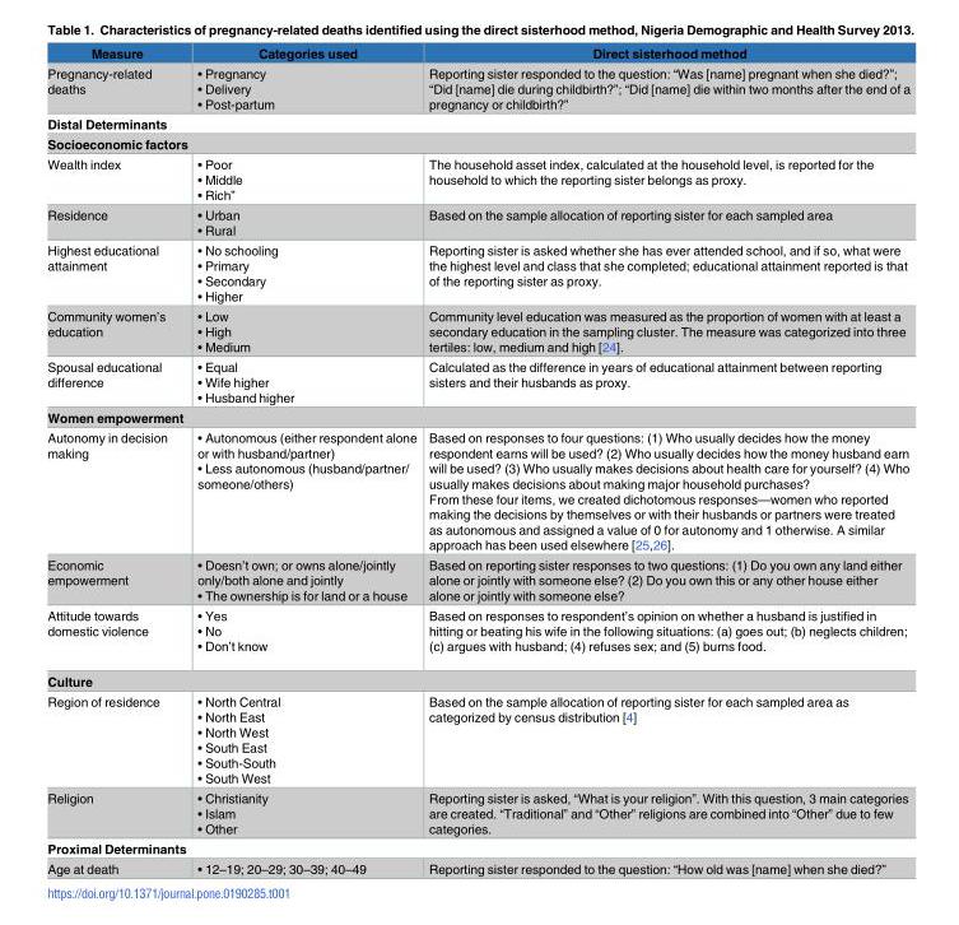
<table><thead><tr><td>Measure</td><td>Categories used</td><td>Direct sisterhood method</td></tr></thead><tbody><tr><td>Pregnancy-related deaths</td><td>• Pregnancy • Delivery • Post-partum</td><td>Reporting sister responded to the question: “Was [name] pregnant when she died?”; “Did [name] die during childbirth?”; “Did [name] die within two months after the end of a pregnancy or childbirth?”</td></tr><tr><td colspan="3">Distal Determinants</td></tr><tr><td colspan="3">Socioeconomic factors</td></tr><tr><td>Wealth index</td><td>• Poor • Middle • Rich”</td><td>The household asset index, calculated at the household level, is reported for the household to which the reporting sister belongs as proxy.</td></tr><tr><td>Residence</td><td>• Urban • Rural</td><td>Based on the sample allocation of reporting sister for each sampled area</td></tr><tr><td>Highest educational attainment</td><td>• No schooling • Primary • Secondary • Higher</td><td>Reporting sister is asked whether she has ever attended school, and if so, what were the highest level and class that she completed; educational attainment reported is that of the reporting sister as proxy.</td></tr><tr><td>Community women’s education</td><td>• Low • High • Medium</td><td>Community level education was measured as the proportion of women with at least a secondary education in the sampling cluster. The measure was categorized into three tertiles: low, medium and high [24].</td></tr><tr><td>Spousal educational difference</td><td>• Equal • Wife higher • Husband higher</td><td>Calculated as the difference in years of educational attainment between reporting sisters and their husbands as proxy.</td></tr><tr><td colspan="3">Women empowerment</td></tr><tr><td>Autonomy in decision making</td><td>• Autonomous (either respondent alone or with husband/partner) • Less autonomous (husband/partner/ someone/others)</td><td>Based on responses to four questions: (1) Who usually decides how the money respondent earns will be used? (2) Who usually decides how the money husband earn will be used? (3) Who usually makes decisions about health care for yourself? (4) Who usually makes decisions about making major household purchases? From these four items, we created dichotomous responses—women who reported making the decisions by themselves or with their husbands or partners were treated as autonomous and assigned a value of 0 for autonomy and 1 otherwise. A similar approach has been used elsewhere [25,26].</td></tr><tr><td>Economic empowerment</td><td>• Doesn’t own; or owns alone/jointly only/both alone and jointly • The ownership is for land or a house</td><td>Based on reporting sister responses to two questions: (1) Do you own any land either alone or jointly with someone else? (2) Do you own this or any other house either alone or jointly with someone else?</td></tr><tr><td>Attitude towards domestic violence</td><td>• Yes • No • Don’t know</td><td>Based on responses to respondent’s opinion on whether a husband is justified in hitting or beating his wife in the following situations: (a) goes out; (b) neglects children; (c) argues with husband; (4) refuses sex; and (5) burns food.</td></tr><tr><td colspan="3">Culture</td></tr><tr><td>Region of residence</td><td>• North Central • North East • North West • South East • South-South • South West</td><td>Based on the sample allocation of reporting sister for each sampled area as categorized by census distribution [4]</td></tr><tr><td>Religion</td><td>• Christianity • Islam • Other</td><td>Reporting sister is asked, “What is your religion”. With this question, 3 main categories are created. “Traditional” and “Other” religions are combined into “Other” due to few categories.</td></tr><tr><td colspan="3">Proximal Determinants</td></tr><tr><td>Age at death</td><td>• 12–19; 20–29; 30–39; 40–49</td><td>Reporting sister responded to the question: “How old was [name] when she died?”</td></tr></tbody></table>